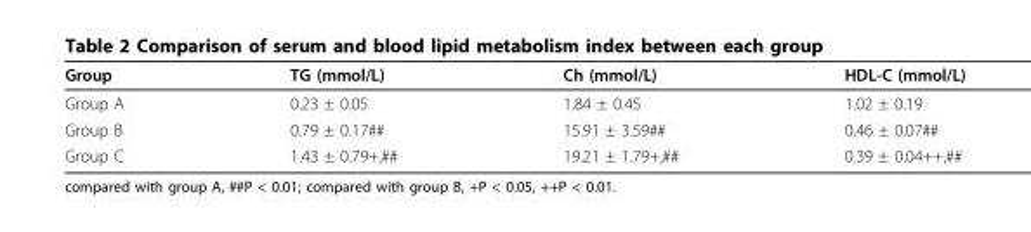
<table><thead><tr><td>Group</td><td>TG (mmol/L)</td><td>Ch (mmol/L)</td><td>HDL-C (mmol/L)</td></tr></thead><tbody><tr><td>Group A</td><td>0.23 ± 0.05</td><td>1.84 ± 0.45</td><td>1.02 ± 0.19</td></tr><tr><td>Group B</td><td>0.79 ± 0.17##</td><td>15.91 ± 3.59##</td><td>0.46 ± 0.07##</td></tr><tr><td>Group C</td><td>1.43 ± 0.79+,##</td><td>19.21 ± 1.79+,##</td><td>0.39 ± 0.04++,##</td></tr></tbody></table>